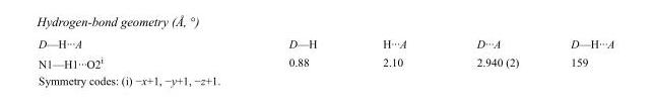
<table><tbody><tr><td>D—H···A</td><td>D—H</td><td>H···A</td><td>D···A</td><td>D—H···A</td></tr><tr><td>N1—H1···O2<sup>i</sup></td><td>0.88</td><td>2.10</td><td>2.940 (2)</td><td>159</td></tr></tbody></table>